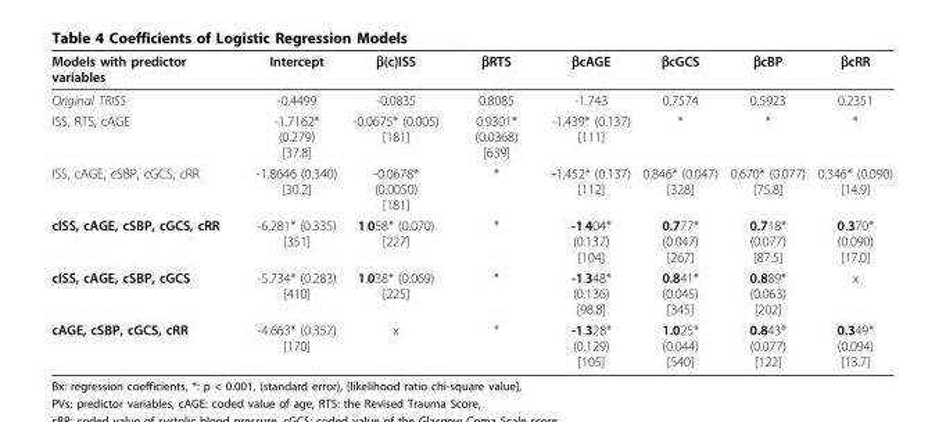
<table><thead><tr><td>Models with predictor variables</td><td>Intercept</td><td>β(c)ISS</td><td>βRTS</td><td>βcAGE</td><td>βcGCS</td><td>βcBP</td><td>βcRR</td></tr></thead><tbody><tr><td>Original TRISS</td><td>-0.4499</td><td>-0.0835</td><td>0.8085</td><td>-1.743</td><td>0.7574</td><td>0.5923</td><td>0.2351</td></tr><tr><td>ISS, RTS, cAGE</td><td>-1.7162* (0.279) [37.8]</td><td>-0.0675* (0.005) [181]</td><td>0.9301* (0.0368) [639]</td><td>-1.439* (0.137) [111]</td><td>*</td><td>*</td><td>*</td></tr><tr><td>ISS, cAGE, cSBP, cGCS, cRR</td><td>-1.8646 (0.340) [30.2]</td><td>-0.0678* (0.0050) [181]</td><td>*</td><td>-1.452* (0.137) [112]</td><td>0.846* (0.047) [328]</td><td>0.670* (0.077) [75.8]</td><td>0.346* (0.090) [14.9]</td></tr><tr><td>cISS, cAGE, cSBP, cGCS, cRR</td><td>-6.281* (0.335) [351]</td><td>1.058* (0.070) [227]</td><td>*</td><td>-1.404* (0.137) [104]</td><td>0.777* (0.047) [267]</td><td>0.718* (0.077) [87.5]</td><td>0.370* (0.090) [17.0]</td></tr><tr><td>cISS, cAGE, cSBP, cGCS</td><td>-5.734* (0.283) [410]</td><td>1.038* (0.069) [225]</td><td>*</td><td>-1.348* (0.136) [98.8]</td><td>0.841* (0.045) [345]</td><td>0.889* (0.063) [202]</td><td>x</td></tr><tr><td>cAGE, cSBP, cGCS, cRR</td><td>-4.663* (0.357) [170]</td><td>x</td><td>*</td><td>-1.328* (0.129) [105]</td><td>1.025* (0.044) [540]</td><td>0.843* (0.077) [122]</td><td>0.349* (0.094) [13.7]</td></tr></tbody></table>